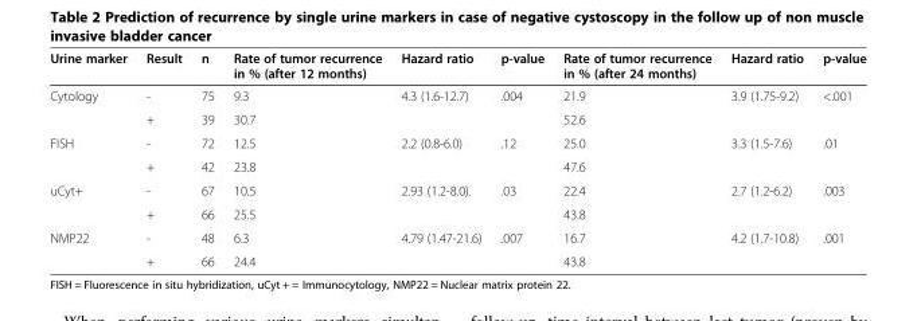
<table><thead><tr><td>Urine marker</td><td>Result</td><td>n</td><td>Rate of tumor recurrence in % (after 12 months)</td><td>Hazard ratio</td><td>p-value</td><td>Rate of tumor recurrence in % (after 24 months)</td><td>Hazard ratio</td><td>p-value</td></tr></thead><tbody><tr><td rowspan="2">Cytology</td><td>-</td><td>75</td><td>9.3</td><td rowspan="2">4.3 (1.6-12.7)</td><td rowspan="2">.004</td><td>21.9</td><td rowspan="2">3.9 (1.75-9.2)</td><td rowspan="2">&lt;.001</td></tr><tr><td>+</td><td>39</td><td>30.7</td><td>52.6</td></tr><tr><td rowspan="2">FISH</td><td>-</td><td>72</td><td>12.5</td><td rowspan="2">2.2 (0.8-6.0)</td><td rowspan="2">.12</td><td>25.0</td><td rowspan="2">3.3 (1.5-7.6)</td><td rowspan="2">.01</td></tr><tr><td>+</td><td>42</td><td>23.8</td><td>47.6</td></tr><tr><td rowspan="2">uCyt+</td><td>-</td><td>67</td><td>10.5</td><td rowspan="2">2.93 (1.2-8.0).</td><td rowspan="2">.03</td><td>22.4</td><td rowspan="2">2.7 (1.2-6.2)</td><td rowspan="2">.003</td></tr><tr><td>+</td><td>66</td><td>25.5</td><td>43.8</td></tr><tr><td rowspan="2">NMP22</td><td>-</td><td>48</td><td>6.3</td><td rowspan="2">4.79 (1.47-21.6)</td><td rowspan="2">.007</td><td>16.7</td><td rowspan="2">4.2 (1.7-10.8)</td><td rowspan="2">.001</td></tr><tr><td>+</td><td>66</td><td>24.4</td><td>43.8</td></tr></tbody></table>